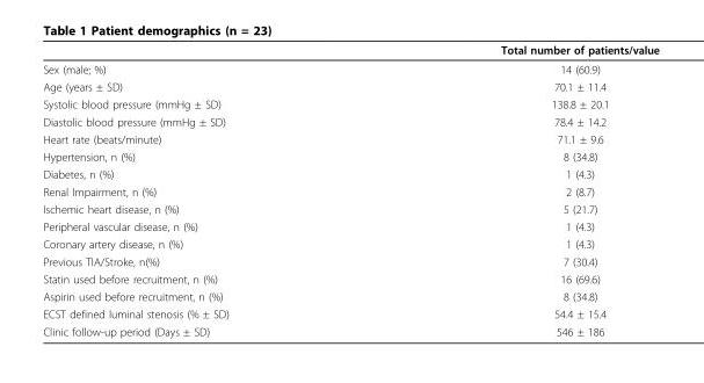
<table><thead><tr><td></td><td>Total number of patients/value</td></tr></thead><tbody><tr><td>Sex (male; %)</td><td>14 (60.9)</td></tr><tr><td>Age (years ± SD)</td><td>70.1 ± 11.4</td></tr><tr><td>Systolic blood pressure (mmHg ± SD)</td><td>138.8 ± 20.1</td></tr><tr><td>Diastolic blood pressure (mmHg ± SD)</td><td>78.4 ± 14.2</td></tr><tr><td>Heart rate (beats/minute)</td><td>71.1 ± 9.6</td></tr><tr><td>Hypertension, n (%)</td><td>8 (34.8)</td></tr><tr><td>Diabetes, n (%)</td><td>1 (4.3)</td></tr><tr><td>Renal Impairment, n (%)</td><td>2 (8.7)</td></tr><tr><td>Ischemic heart disease, n (%)</td><td>5 (21.7)</td></tr><tr><td>Peripheral vascular disease, n (%)</td><td>1 (4.3)</td></tr><tr><td>Coronary artery disease, n (%)</td><td>1 (4.3)</td></tr><tr><td>Previous TIA/Stroke, n(%)</td><td>7 (30.4)</td></tr><tr><td>Statin used before recruitment, n (%)</td><td>16 (69.6)</td></tr><tr><td>Aspirin used before recruitment, n (%)</td><td>8 (34.8)</td></tr><tr><td>ECST defined luminal stenosis (% ± SD)</td><td>54.4 ± 15.4</td></tr><tr><td>Clinic follow-up period (Days ± SD)</td><td>546 ± 186</td></tr></tbody></table>